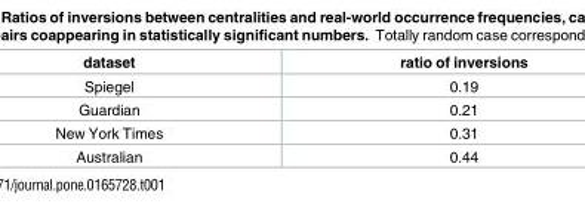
<table><thead><tr><td>dataset</td><td>ratio of inversions</td></tr></thead><tbody><tr><td>Spiegel</td><td>0.19</td></tr><tr><td>Guardian</td><td>0.21</td></tr><tr><td>New York Times</td><td>0.31</td></tr><tr><td>Australian</td><td>0.44</td></tr></tbody></table>